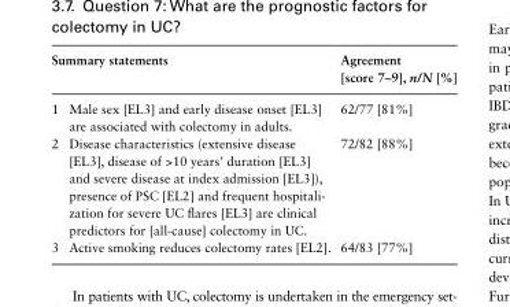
<table><thead><tr><td colspan="2">Summary statements</td><td rowspan="2">Agreement [score 7–9], n/N [%] 62/77 [81%]</td></tr><tr><td>1</td><td>Male sex [EL3] and early disease onset [EL3] are associated with colectomy in adults.</td></tr></thead><tbody><tr><td>2</td><td>Disease characteristics (extensive disease [EL3], disease of &gt;10 years’ duration [EL3] and severe disease at index admission [EL3]), presence of PSC [EL2] and frequent hospitali- zation for severe UC flares [EL3] are clinical predictors for [all-cause] colectomy in UC.</td><td>72/82 [88%]</td></tr><tr><td>3</td><td>Active smoking reduces colectomy rates [EL2].</td><td>64/83 [77%]</td></tr></tbody></table>